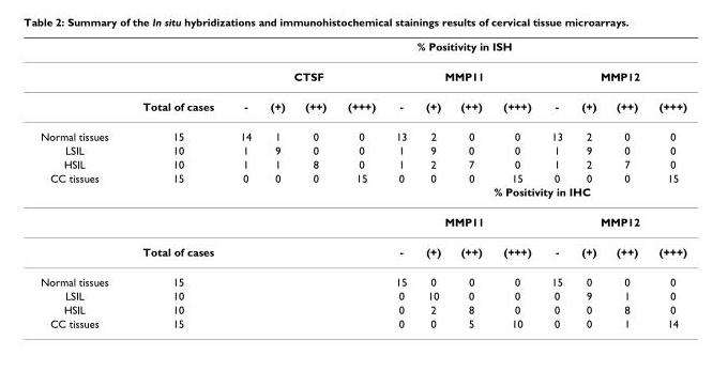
<table><thead><tr><td rowspan="3"></td><td rowspan="3">Total of cases</td><td colspan="12">% Positivity in ISH</td></tr><tr><td colspan="4">CTSF</td><td colspan="4">MMP11</td><td colspan="4">MMP12</td></tr><tr><td>-</td><td>(+)</td><td>(++)</td><td>(+++)</td><td>-</td><td>(+)</td><td>(++)</td><td>(+++)</td><td>-</td><td>(+)</td><td>(++)</td><td>(+++)</td></tr></thead><tbody><tr><td>Normal tissues</td><td>15</td><td>14</td><td>1</td><td>0</td><td>0</td><td>13</td><td>2</td><td>0</td><td>0</td><td>13</td><td>2</td><td>0</td><td>0</td></tr><tr><td>LSIL</td><td>10</td><td>1</td><td>9</td><td>0</td><td>0</td><td>1</td><td>9</td><td>0</td><td>0</td><td>1</td><td>9</td><td>0</td><td>0</td></tr><tr><td>HSIL</td><td>10</td><td>1</td><td>1</td><td>8</td><td>0</td><td>1</td><td>2</td><td>7</td><td>0</td><td>1</td><td>2</td><td>7</td><td>0</td></tr><tr><td rowspan="4">CC tissues</td><td>15</td><td>0</td><td>0</td><td>0</td><td>15</td><td>0</td><td>0</td><td>0</td><td>15</td><td>0</td><td>0</td><td>0</td><td>15</td></tr><tr><td></td><td></td><td></td><td></td><td></td><td colspan="8">% Positivity in IHC</td></tr><tr><td></td><td></td><td></td><td></td><td></td><td colspan="4">MMP11</td><td colspan="4">MMP12</td></tr><tr><td>Total of cases</td><td></td><td></td><td></td><td></td><td>-</td><td>(+)</td><td>(++)</td><td>(+++)</td><td>-</td><td>(+)</td><td>(++)</td><td>(+++)</td></tr><tr><td>Normal tissues</td><td>15</td><td></td><td></td><td></td><td></td><td>15</td><td>0</td><td>0</td><td>0</td><td>15</td><td>0</td><td>0</td><td>0</td></tr><tr><td>LSIL</td><td>10</td><td></td><td></td><td></td><td></td><td>0</td><td>10</td><td>0</td><td>0</td><td>0</td><td>9</td><td>1</td><td>0</td></tr><tr><td>HSIL</td><td>10</td><td></td><td></td><td></td><td></td><td>0</td><td>2</td><td>8</td><td>0</td><td>0</td><td>0</td><td>8</td><td>0</td></tr><tr><td>CC tissues</td><td>15</td><td></td><td></td><td></td><td></td><td>0</td><td>0</td><td>5</td><td>10</td><td>0</td><td>0</td><td>1</td><td>14</td></tr></tbody></table>